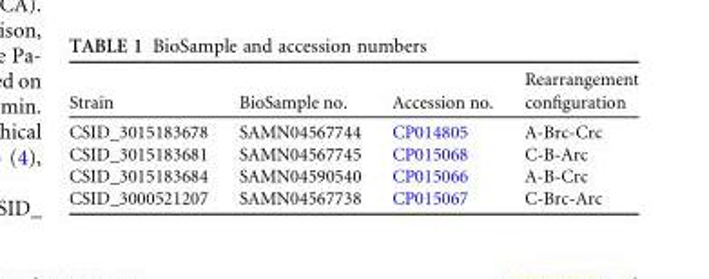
<table><thead><tr><td>Strain</td><td>BioSample no.</td><td>Accession no.</td><td>Rearrangement configuration</td></tr></thead><tbody><tr><td>CSID_3015183678</td><td>SAMN04567744</td><td>CP014805</td><td>A-Brc-Crc</td></tr><tr><td>CSID_3015183681</td><td>SAMN04567745</td><td>CP015068</td><td>C-B-Arc</td></tr><tr><td>CSID_3015183684</td><td>SAMN04590540</td><td>CP015066</td><td>A-B-Crc</td></tr><tr><td>CSID_3000521207</td><td>SAMN04567738</td><td>CP015067</td><td>C-Brc-Arc</td></tr></tbody></table>